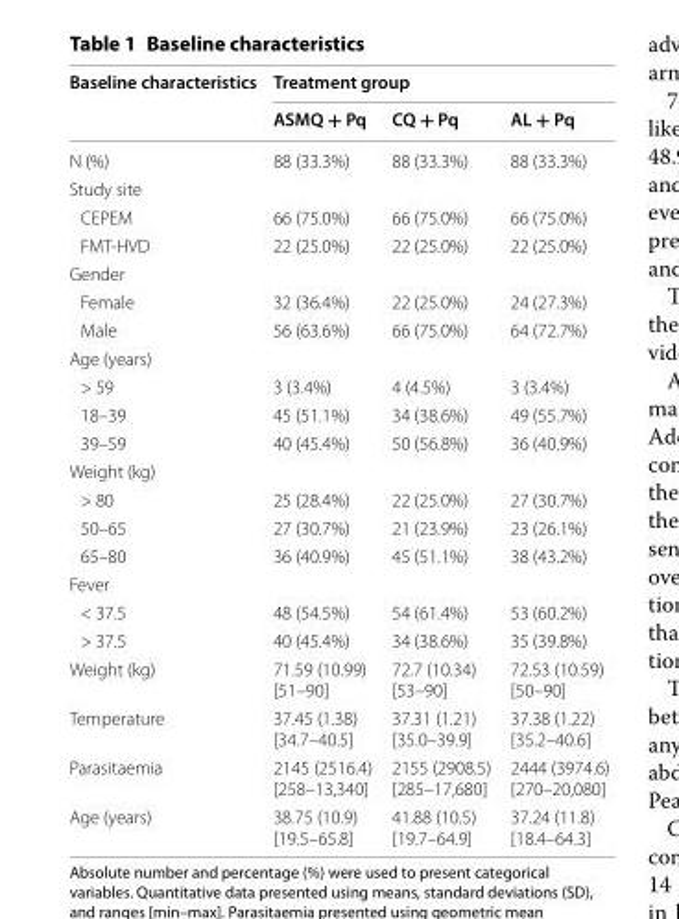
<table><thead><tr><td rowspan="2">Baseline characteristics</td><td colspan="3">Treatment group</td></tr><tr><td>ASMQ + Pq</td><td>CQ + Pq</td><td>AL + Pq</td></tr></thead><tbody><tr><td>N (%)</td><td>88 (33.3%)</td><td>88 (33.3%)</td><td>88 (33.3%)</td></tr><tr><td colspan="4">Study site</td></tr><tr><td>CEPEM</td><td>66 (75.0%)</td><td>66 (75.0%)</td><td>66 (75.0%)</td></tr><tr><td>FMT-HVD</td><td>22 (25.0%)</td><td>22 (25.0%)</td><td>22 (25.0%)</td></tr><tr><td colspan="4">Gender</td></tr><tr><td>Female</td><td>32 (36.4%)</td><td>22 (25.0%)</td><td>24 (27.3%)</td></tr><tr><td>Male</td><td>56 (63.6%)</td><td>66 (75.0%)</td><td>64 (72.7%)</td></tr><tr><td colspan="4">Age (years)</td></tr><tr><td>&gt; 59</td><td>3 (3.4%)</td><td>4 (4.5%)</td><td>3 (3.4%)</td></tr><tr><td>18–39</td><td>45 (51.1%)</td><td>34 (38.6%)</td><td>49 (55.7%)</td></tr><tr><td>39–59</td><td>40 (45.4%)</td><td>50 (56.8%)</td><td>36 (40.9%)</td></tr><tr><td colspan="4">Weight (kg)</td></tr><tr><td>&gt; 80</td><td>25 (28.4%)</td><td>22 (25.0%)</td><td>27 (30.7%)</td></tr><tr><td>50–65</td><td>27 (30.7%)</td><td>21 (23.9%)</td><td>23 (26.1%)</td></tr><tr><td>65–80</td><td>36 (40.9%)</td><td>45 (51.1%)</td><td>38 (43.2%)</td></tr><tr><td colspan="4">Fever</td></tr><tr><td>&lt; 37.5</td><td>48 (54.5%)</td><td>54 (61.4%)</td><td>53 (60.2%)</td></tr><tr><td>&gt; 37.5</td><td>40 (45.4%)</td><td>34 (38.6%)</td><td>35 (39.8%)</td></tr><tr><td>Weight (kg)</td><td>71.59 (10.99) [51–90]</td><td>72.7 (10.34) [53–90]</td><td>72.53 (10.59) [50–90]</td></tr><tr><td>Temperature</td><td>37.45 (1.38) [34.7–40.5]</td><td>37.31 (1.21) [35.0–39.9]</td><td>37.38 (1.22) [35.2–40.6]</td></tr><tr><td>Parasitaemia</td><td>2145 (2516.4) [258–13,340]</td><td>2155 (2908.5) [285–17,680]</td><td>2444 (3974.6) [270–20,080]</td></tr><tr><td>Age (years)</td><td>38.75 (10.9) [19.5–65.8]</td><td>41.88 (10.5) [19.7–64.9]</td><td>37.24 (11.8) [18.4–64.3]</td></tr></tbody></table>